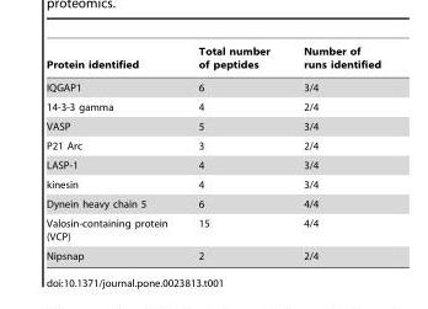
<table><thead><tr><td>Protein identified</td><td>Total number of peptides</td><td>Number of runs identified</td></tr></thead><tbody><tr><td>IQGAP1</td><td>6</td><td>3/4</td></tr><tr><td>14-3-3 gamma</td><td>4</td><td>2/4</td></tr><tr><td>VASP</td><td>5</td><td>3/4</td></tr><tr><td>P21 Arc</td><td>3</td><td>2/4</td></tr><tr><td>LASP-1</td><td>4</td><td>3/4</td></tr><tr><td>kinesin</td><td>4</td><td>3/4</td></tr><tr><td>Dynein heavy chain 5</td><td>6</td><td>4/4</td></tr><tr><td>Valosin-containing protein (VCP)</td><td>15</td><td>4/4</td></tr><tr><td>Nipsnap</td><td>2</td><td>2/4</td></tr></tbody></table>